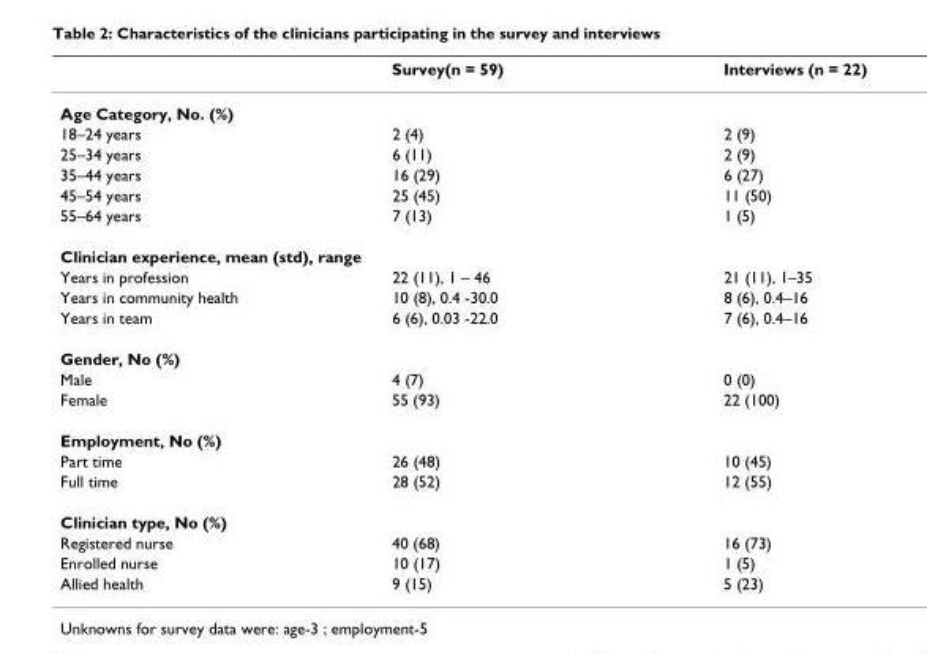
<table><thead><tr><td></td><td>Survey(n = 59)</td><td>Interviews (n = 22)</td></tr></thead><tbody><tr><td colspan="3">Age Category, No. (%)</td></tr><tr><td>18–24 years</td><td>2 (4)</td><td>2 (9)</td></tr><tr><td>25–34 years</td><td>6 (11)</td><td>2 (9)</td></tr><tr><td>35–44 years</td><td>16 (29)</td><td>6 (27)</td></tr><tr><td>45–54 years</td><td>25 (45)</td><td>11 (50)</td></tr><tr><td>55–64 years</td><td>7 (13)</td><td>1 (5)</td></tr><tr><td colspan="3">Clinician experience, mean (std), range</td></tr><tr><td>Years in profession</td><td>22 (11), 1 – 46</td><td>21 (11), 1–35</td></tr><tr><td>Years in community health</td><td>10 (8), 0.4 -30.0</td><td>8 (6), 0.4–16</td></tr><tr><td>Years in team</td><td>6 (6), 0.03 -22.0</td><td>7 (6), 0.4–16</td></tr><tr><td colspan="3">Gender, No (%)</td></tr><tr><td>Male</td><td>4 (7)</td><td>0 (0)</td></tr><tr><td>Female</td><td>55 (93)</td><td>22 (100)</td></tr><tr><td colspan="3">Employment, No (%)</td></tr><tr><td>Part time</td><td>26 (48)</td><td>10 (45)</td></tr><tr><td>Full time</td><td>28 (52)</td><td>12 (55)</td></tr><tr><td colspan="3">Clinician type, No (%)</td></tr><tr><td>Registered nurse</td><td>40 (68)</td><td>16 (73)</td></tr><tr><td>Enrolled nurse</td><td>10 (17)</td><td>1 (5)</td></tr><tr><td>Allied health</td><td>9 (15)</td><td>5 (23)</td></tr></tbody></table>